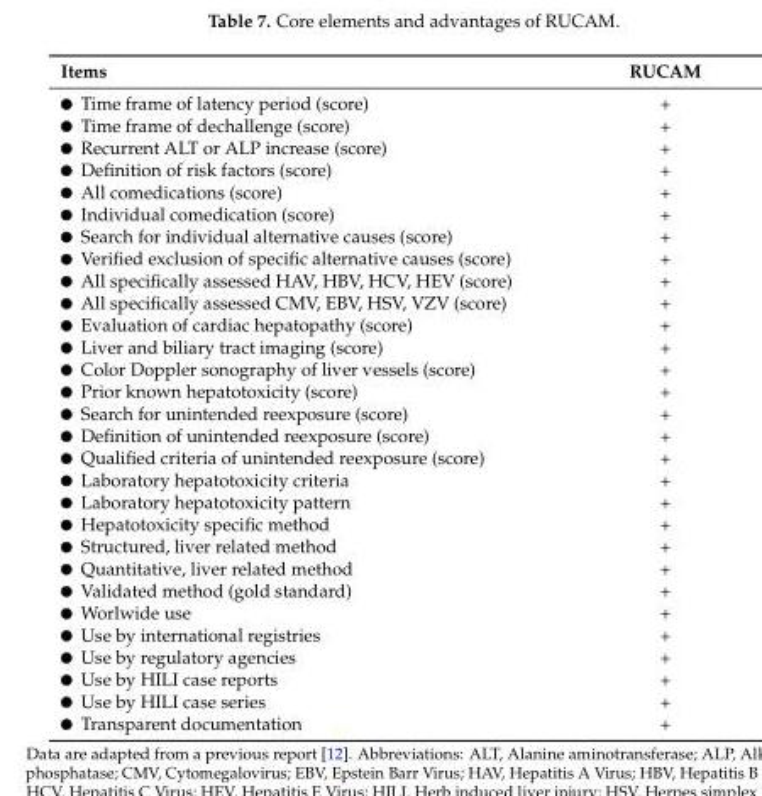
<table><thead><tr><td>Items</td><td>RUCAM</td></tr></thead><tbody><tr><td>Time frame of latency period (score)</td><td>+</td></tr><tr><td>Time frame of dechallenge (score)</td><td>+</td></tr><tr><td>Recurrent ALT or ALP increase (score)</td><td>+</td></tr><tr><td>Definition of risk factors (score)</td><td>+</td></tr><tr><td>All comedications (score)</td><td>+</td></tr><tr><td>Individual comedication (score)</td><td>+</td></tr><tr><td>Search for individual alternative causes (score)</td><td>+</td></tr><tr><td>Verified exclusion of specific alternative causes (score)</td><td>+</td></tr><tr><td>All specifically assessed HAV, HBV, HCV, HEV (score)</td><td>+</td></tr><tr><td>All specifically assessed CMV, EBV, HSV, VZV (score)</td><td>+</td></tr><tr><td>Evaluation of cardiac hepatopathy (score)</td><td>+</td></tr><tr><td>Liver and biliary tract imaging (score)</td><td>+</td></tr><tr><td>Color Doppler sonography of liver vessels (score)</td><td>+</td></tr><tr><td>Prior known hepatotoxicity (score)</td><td>+</td></tr><tr><td>Search for unintended reexposure (score)</td><td>+</td></tr><tr><td>Definition of unintended reexposure (score)</td><td>+</td></tr><tr><td>Qualified criteria of unintended reexposure (score)</td><td>+</td></tr><tr><td>Laboratory hepatotoxicity criteria</td><td>+</td></tr><tr><td>Laboratory hepatotoxicity pattern</td><td>+</td></tr><tr><td>Hepatotoxicity specific method</td><td>+</td></tr><tr><td>Structured, liver related method</td><td>+</td></tr><tr><td>Quantitative, liver related method</td><td>+</td></tr><tr><td>Validated method (gold standard)</td><td>+</td></tr><tr><td>Worlwide use</td><td>+</td></tr><tr><td>Use by international registries</td><td>+</td></tr><tr><td>Use by regulatory agencies</td><td>+</td></tr><tr><td>Use by HILI case reports</td><td>+</td></tr><tr><td>Use by HILI case series</td><td>+</td></tr><tr><td>Transparent documentation</td><td>+</td></tr></tbody></table>